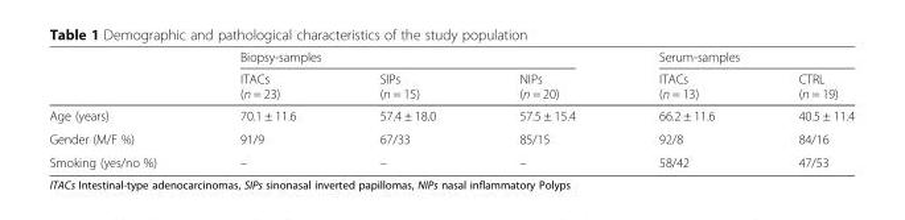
<table><thead><tr><td rowspan="2"></td><td colspan="3">Biopsy-samples</td><td colspan="2">Serum-samples</td></tr><tr><td>ITACs (n = 23)</td><td>SIPs (n = 15)</td><td>NIPs (n = 20)</td><td>ITACs (n = 13)</td><td>CTRL (n = 19)</td></tr></thead><tbody><tr><td>Age (years)</td><td>70.1 ± 11.6</td><td>57.4 ± 18.0</td><td>57.5 ± 15.4</td><td>66.2 ± 11.6</td><td>40.5 ± 11.4</td></tr><tr><td>Gender (M/F %)</td><td>91/9</td><td>67/33</td><td>85/15</td><td>92/8</td><td>84/16</td></tr><tr><td>Smoking (yes/no %)</td><td>–</td><td>–</td><td>–</td><td>58/42</td><td>47/53</td></tr></tbody></table>